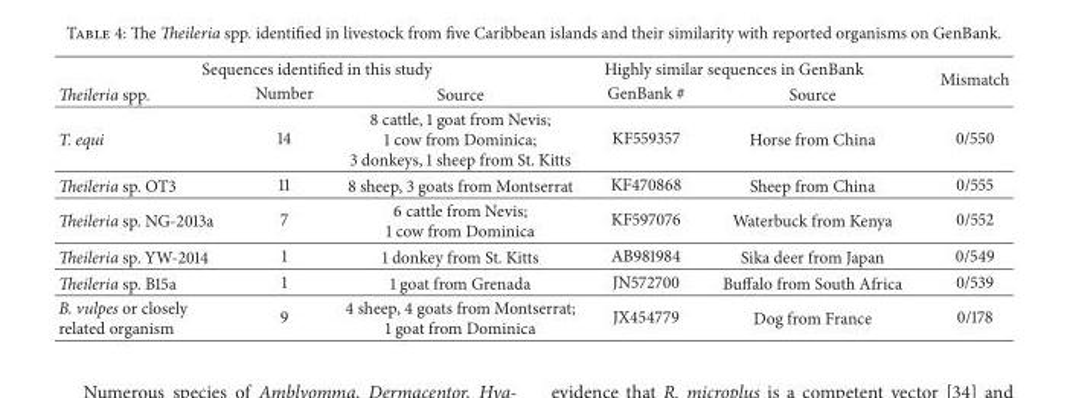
<table><thead><tr><td colspan="3">Sequences identified in this study</td><td colspan="2">Highly similar sequences in GenBank</td><td rowspan="2">Mismatch</td></tr><tr><td>Theileria spp.</td><td>Number</td><td>Source</td><td>GenBank #</td><td>Source</td></tr></thead><tbody><tr><td>T. equi</td><td>14</td><td>8 cattle, 1 goat from Nevis; 1 cow from Dominica; 3 donkeys, 1 sheep from St. Kitts</td><td>KF559357</td><td>Horse from China</td><td>0/550</td></tr><tr><td>Theileria sp. OT3</td><td>11</td><td>8 sheep, 3 goats from Montserrat</td><td>KF470868</td><td>Sheep from China</td><td>0/555</td></tr><tr><td>Theileria sp. NG-2013a</td><td>7</td><td>6 cattle from Nevis; 1 cow from Dominica</td><td>KF597076</td><td>Waterbuck from Kenya</td><td>0/552</td></tr><tr><td>Theileria sp. YW-2014</td><td>1</td><td>1 donkey from St. Kitts</td><td>AB981984</td><td>Sika deer from Japan</td><td>0/549</td></tr><tr><td>Theileria sp. B15a</td><td>1</td><td>1 goat from Grenada</td><td>JN572700</td><td>Buffalo from South Africa</td><td>0/539</td></tr><tr><td>B. vulpes or closely related organism</td><td>9</td><td>4 sheep, 4 goats from Montserrat; 1 goat from Dominica</td><td>JX454779</td><td>Dog from France</td><td>0/178</td></tr></tbody></table>